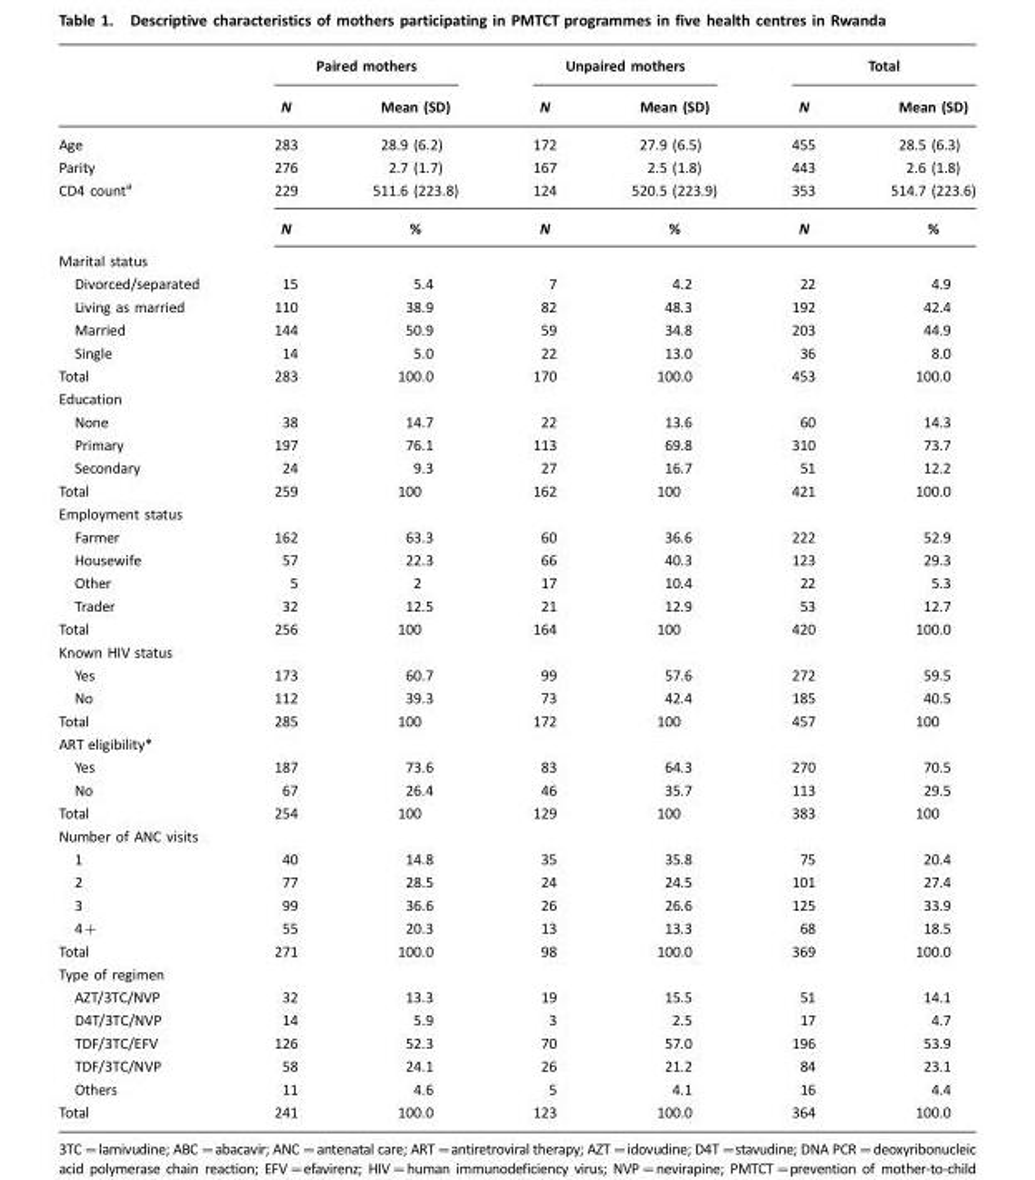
<table><thead><tr><td rowspan="2"></td><td colspan="2">Paired mothers</td><td colspan="2">Unpaired mothers</td><td colspan="2">Total</td></tr><tr><td>N</td><td>Mean (SD)</td><td>N</td><td>Mean (SD)</td><td>N</td><td>Mean (SD)</td></tr></thead><tbody><tr><td>Age</td><td>283</td><td>28.9 (6.2)</td><td>172</td><td>27.9 (6.5)</td><td>455</td><td>28.5 (6.3)</td></tr><tr><td>Parity</td><td>276</td><td>2.7 (1.7)</td><td>167</td><td>2.5 (1.8)</td><td>443</td><td>2.6 (1.8)</td></tr><tr><td rowspan="2">CD4 count<sup>a</sup></td><td>229</td><td>511.6 (223.8)</td><td>124</td><td>520.5 (223.9)</td><td>353</td><td>514.7 (223.6)</td></tr><tr><td>N</td><td>%</td><td>N</td><td>%</td><td>N</td><td>%</td></tr><tr><td colspan="7">Marital status</td></tr><tr><td>Divorced/separated</td><td>15</td><td>5.4</td><td>7</td><td>4.2</td><td>22</td><td>4.9</td></tr><tr><td>Living as married</td><td>110</td><td>38.9</td><td>82</td><td>48.3</td><td>192</td><td>42.4</td></tr><tr><td>Married</td><td>144</td><td>50.9</td><td>59</td><td>34.8</td><td>203</td><td>44.9</td></tr><tr><td>Single</td><td>14</td><td>5.0</td><td>22</td><td>13.0</td><td>36</td><td>8.0</td></tr><tr><td>Total</td><td>283</td><td>100.0</td><td>170</td><td>100.0</td><td>453</td><td>100.0</td></tr><tr><td colspan="7">Education</td></tr><tr><td>None</td><td>38</td><td>14.7</td><td>22</td><td>13.6</td><td>60</td><td>14.3</td></tr><tr><td>Primary</td><td>197</td><td>76.1</td><td>113</td><td>69.8</td><td>310</td><td>73.7</td></tr><tr><td>Secondary</td><td>24</td><td>9.3</td><td>27</td><td>16.7</td><td>51</td><td>12.2</td></tr><tr><td>Total</td><td>259</td><td>100</td><td>162</td><td>100</td><td>421</td><td>100.0</td></tr><tr><td colspan="7">Employment status</td></tr><tr><td>Farmer</td><td>162</td><td>63.3</td><td>60</td><td>36.6</td><td>222</td><td>52.9</td></tr><tr><td>Housewife</td><td>57</td><td>22.3</td><td>66</td><td>40.3</td><td>123</td><td>29.3</td></tr><tr><td>Other</td><td>5</td><td>2</td><td>17</td><td>10.4</td><td>22</td><td>5.3</td></tr><tr><td>Trader</td><td>32</td><td>12.5</td><td>21</td><td>12.9</td><td>53</td><td>12.7</td></tr><tr><td>Total</td><td>256</td><td>100</td><td>164</td><td>100</td><td>420</td><td>100.0</td></tr><tr><td colspan="7">Known HIV status</td></tr><tr><td>Yes</td><td>173</td><td>60.7</td><td>99</td><td>57.6</td><td>272</td><td>59.5</td></tr><tr><td>No</td><td>112</td><td>39.3</td><td>73</td><td>42.4</td><td>185</td><td>40.5</td></tr><tr><td>Total</td><td>285</td><td>100</td><td>172</td><td>100</td><td>457</td><td>100</td></tr><tr><td colspan="7">ART eligibility*</td></tr><tr><td>Yes</td><td>187</td><td>73.6</td><td>83</td><td>64.3</td><td>270</td><td>70.5</td></tr><tr><td>No</td><td>67</td><td>26.4</td><td>46</td><td>35.7</td><td>113</td><td>29.5</td></tr><tr><td>Total</td><td>254</td><td>100</td><td>129</td><td>100</td><td>383</td><td>100</td></tr><tr><td colspan="7">Number of ANC visits</td></tr><tr><td>1</td><td>40</td><td>14.8</td><td>35</td><td>35.8</td><td>75</td><td>20.4</td></tr><tr><td>2</td><td>77</td><td>28.5</td><td>24</td><td>24.5</td><td>101</td><td>27.4</td></tr><tr><td>3</td><td>99</td><td>36.6</td><td>26</td><td>26.6</td><td>125</td><td>33.9</td></tr><tr><td>4+</td><td>55</td><td>20.3</td><td>13</td><td>13.3</td><td>68</td><td>18.5</td></tr><tr><td>Total</td><td>271</td><td>100.0</td><td>98</td><td>100.0</td><td>369</td><td>100.0</td></tr><tr><td colspan="7">Type of regimen</td></tr><tr><td>AZT/3TC/NVP</td><td>32</td><td>13.3</td><td>19</td><td>15.5</td><td>51</td><td>14.1</td></tr><tr><td>D4T/3TC/NVP</td><td>14</td><td>5.9</td><td>3</td><td>2.5</td><td>17</td><td>4.7</td></tr><tr><td>TDF/3TC/EFV</td><td>126</td><td>52.3</td><td>70</td><td>57.0</td><td>196</td><td>53.9</td></tr><tr><td>TDF/3TC/NVP</td><td>58</td><td>24.1</td><td>26</td><td>21.2</td><td>84</td><td>23.1</td></tr><tr><td>Others</td><td>11</td><td>4.6</td><td>5</td><td>4.1</td><td>16</td><td>4.4</td></tr><tr><td>Total</td><td>241</td><td>100.0</td><td>123</td><td>100.0</td><td>364</td><td>100.0</td></tr></tbody></table>